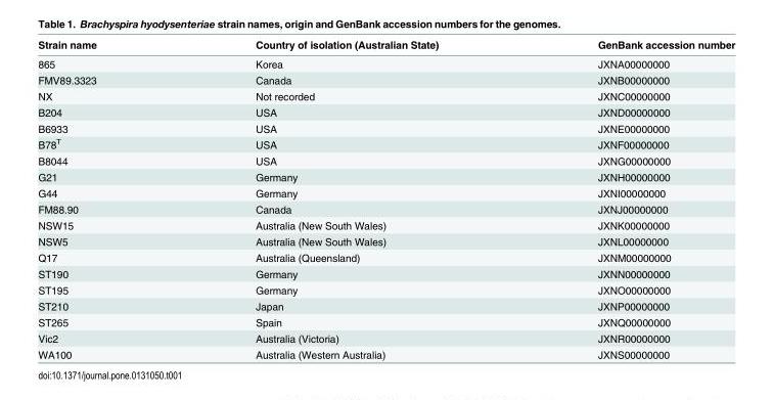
<table><thead><tr><td>Strain name</td><td>Country of isolation (Australian State)</td><td>GenBank accession number</td></tr></thead><tbody><tr><td>865</td><td>Korea</td><td>JXNA00000000</td></tr><tr><td>FMV89.3323</td><td>Canada</td><td>JXNB00000000</td></tr><tr><td>NX</td><td>Not recorded</td><td>JXNC00000000</td></tr><tr><td>B204</td><td>USA</td><td>JXND00000000</td></tr><tr><td>B6933</td><td>USA</td><td>JXNE00000000</td></tr><tr><td>B78<sup>T</sup></td><td>USA</td><td>JXNF00000000</td></tr><tr><td>B8044</td><td>USA</td><td>JXNG00000000</td></tr><tr><td>G21</td><td>Germany</td><td>JXNH00000000</td></tr><tr><td>G44</td><td>Germany</td><td>JXNI00000000</td></tr><tr><td>FM88.90</td><td>Canada</td><td>JXNJ00000000</td></tr><tr><td>NSW15</td><td>Australia (New South Wales)</td><td>JXNK00000000</td></tr><tr><td>NSW5</td><td>Australia (New South Wales)</td><td>JXNL00000000</td></tr><tr><td>Q17</td><td>Australia (Queensland)</td><td>JXNM00000000</td></tr><tr><td>ST190</td><td>Germany</td><td>JXNN00000000</td></tr><tr><td>ST195</td><td>Germany</td><td>JXNO00000000</td></tr><tr><td>ST210</td><td>Japan</td><td>JXNP00000000</td></tr><tr><td>ST265</td><td>Spain</td><td>JXNQ00000000</td></tr><tr><td>Vic2</td><td>Australia (Victoria)</td><td>JXNR00000000</td></tr><tr><td>WA100</td><td>Australia (Western Australia)</td><td>JXNS00000000</td></tr></tbody></table>